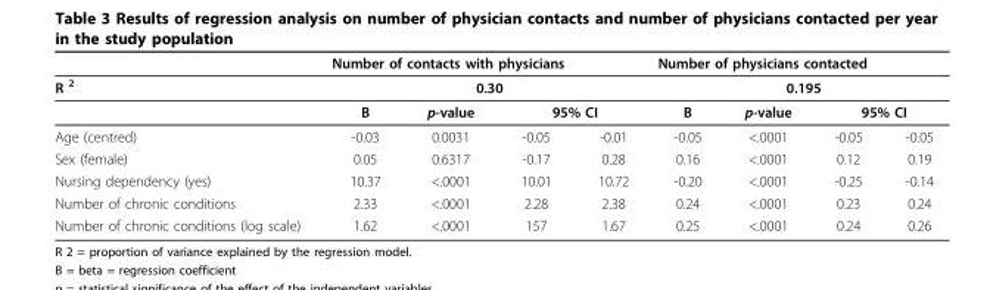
<table><thead><tr><td rowspan="4">R 2 Age (centred)</td><td rowspan="2" colspan="4">Number of contacts with physicians 0.30</td><td rowspan="2" colspan="4">Number of physicians contacted 0.195</td></tr><tr></tr><tr><td rowspan="2">B -0.03</td><td rowspan="2">p-value 0.0031</td><td colspan="2">95% CI</td><td rowspan="2">B -0.05</td><td rowspan="2">p-value &lt;.0001</td><td colspan="2">95% CI</td></tr><tr><td>-0.05</td><td>-0.01</td><td>-0.05</td><td>-0.05</td></tr></thead><tbody><tr><td>Sex (female)</td><td>0.05</td><td>0.6317</td><td>-0.17</td><td>0.28</td><td>0.16</td><td>&lt;.0001</td><td>0.12</td><td>0.19</td></tr><tr><td>Nursing dependency (yes)</td><td>10.37</td><td>&lt;.0001</td><td>10.01</td><td>10.72</td><td>-0.20</td><td>&lt;.0001</td><td>-0.25</td><td>-0.14</td></tr><tr><td>Number of chronic conditions</td><td>2.33</td><td>&lt;.0001</td><td>2.28</td><td>2.38</td><td>0.24</td><td>&lt;.0001</td><td>0.23</td><td>0.24</td></tr><tr><td>Number of chronic conditions (log scale)</td><td>1.62</td><td>&lt;.0001</td><td>157</td><td>1.67</td><td>0.25</td><td>&lt;.0001</td><td>0.24</td><td>0.26</td></tr></tbody></table>